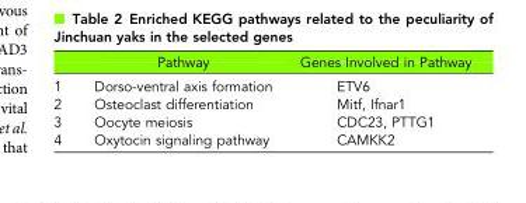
<table><thead><tr><td></td><td>Pathway</td><td>Genes Involved in Pathway</td></tr></thead><tbody><tr><td>1</td><td>Dorso-ventral axis formation</td><td>ETV6</td></tr><tr><td>2</td><td>Osteoclast differentiation</td><td>Mitf, Ifnar1</td></tr><tr><td>3</td><td>Oocyte meiosis</td><td>CDC23, PTTG1</td></tr><tr><td>4</td><td>Oxytocin signaling pathway</td><td>CAMKK2</td></tr></tbody></table>